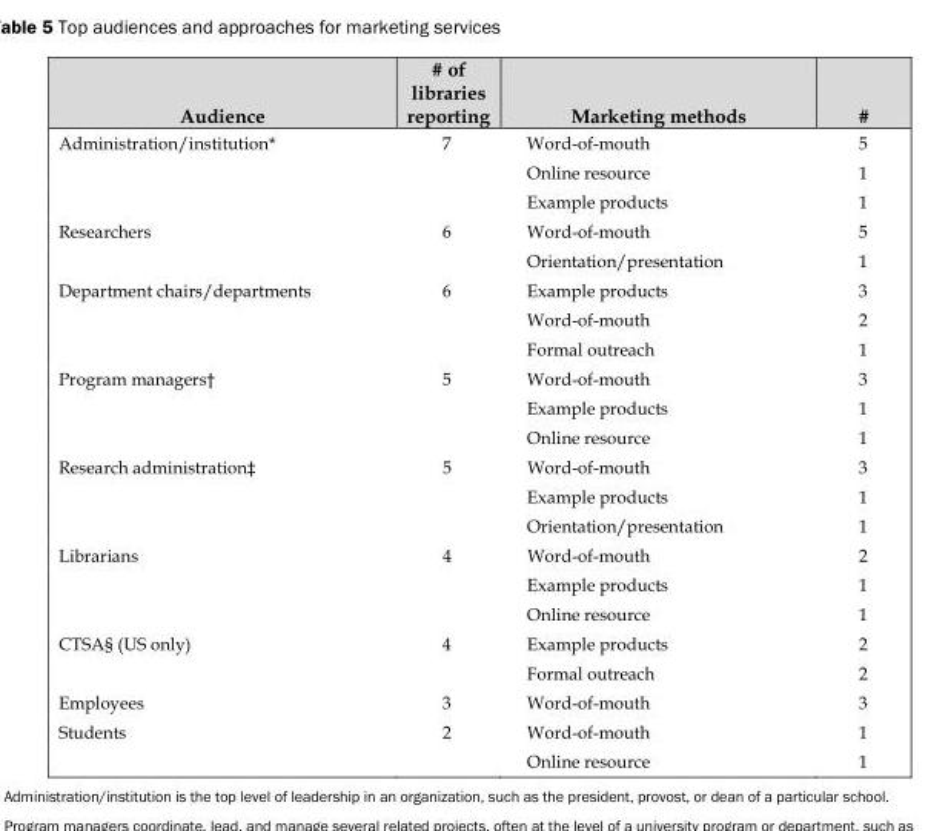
<table><thead><tr><td>Audience</td><td># of libraries reporting</td><td>Marketing methods</td><td>#</td></tr></thead><tbody><tr><td rowspan="3">Administration/institution*</td><td>7</td><td>Word-of-mouth</td><td>5</td></tr><tr><td></td><td>Online resource</td><td>1</td></tr><tr><td></td><td>Example products</td><td>1</td></tr><tr><td rowspan="2">Researchers</td><td>6</td><td>Word-of-mouth</td><td>5</td></tr><tr><td></td><td>Orientation/presentation</td><td>1</td></tr><tr><td rowspan="3">Department chairs/departments</td><td>6</td><td>Example products</td><td>3</td></tr><tr><td></td><td>Word-of-mouth</td><td>2</td></tr><tr><td></td><td>Formal outreach</td><td>1</td></tr><tr><td rowspan="3">Program managers†</td><td>5</td><td>Word-of-mouth</td><td>3</td></tr><tr><td></td><td>Example products</td><td>1</td></tr><tr><td></td><td>Online resource</td><td>1</td></tr><tr><td rowspan="3">Research administration‡</td><td>5</td><td>Word-of-mouth</td><td>3</td></tr><tr><td></td><td>Example products</td><td>1</td></tr><tr><td></td><td>Orientation/presentation</td><td>1</td></tr><tr><td rowspan="3">Librarians</td><td>4</td><td>Word-of-mouth</td><td>2</td></tr><tr><td></td><td>Example products</td><td>1</td></tr><tr><td></td><td>Online resource</td><td>1</td></tr><tr><td rowspan="2">CTSA§ (US only)</td><td>4</td><td>Example products</td><td>2</td></tr><tr><td></td><td>Formal outreach</td><td>2</td></tr><tr><td>Employees</td><td>3</td><td>Word-of-mouth</td><td>3</td></tr><tr><td rowspan="2">Students</td><td>2</td><td>Word-of-mouth</td><td>1</td></tr><tr><td></td><td>Online resource</td><td>1</td></tr></tbody></table>